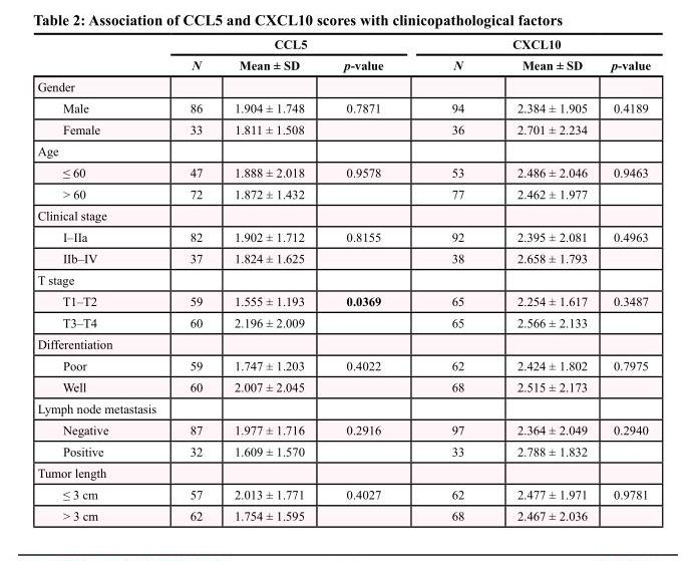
<table><thead><tr><td rowspan="2"></td><td colspan="3">CCL5</td><td colspan="3">CXCL10</td></tr><tr><td>N</td><td>Mean ± SD</td><td>p-value</td><td>N</td><td>Mean ± SD</td><td>p-value</td></tr></thead><tbody><tr><td colspan="7">Gender</td></tr><tr><td>Male</td><td>86</td><td>1.904 ± 1.748</td><td>0.7871</td><td>94</td><td>2.384 ± 1.905</td><td>0.4189</td></tr><tr><td>Female</td><td>33</td><td>1.811 ± 1.508</td><td></td><td>36</td><td>2.701 ± 2.234</td><td></td></tr><tr><td colspan="7">Age</td></tr><tr><td>≤ 60</td><td>47</td><td>1.888 ± 2.018</td><td>0.9578</td><td>53</td><td>2.486 ± 2.046</td><td>0.9463</td></tr><tr><td>&gt; 60</td><td>72</td><td>1.872 ± 1.432</td><td></td><td>77</td><td>2.462 ± 1.977</td><td></td></tr><tr><td colspan="7">Clinical stage</td></tr><tr><td>I–IIa</td><td>82</td><td>1.902 ± 1.712</td><td>0.8155</td><td>92</td><td>2.395 ± 2.081</td><td>0.4963</td></tr><tr><td>IIb–IV</td><td>37</td><td>1.824 ± 1.625</td><td></td><td>38</td><td>2.658 ± 1.793</td><td></td></tr><tr><td colspan="7">T stage</td></tr><tr><td>T1–T2</td><td>59</td><td>1.555 ± 1.193</td><td>0.0369</td><td>65</td><td>2.254 ± 1.617</td><td>0.3487</td></tr><tr><td>T3–T4</td><td>60</td><td>2.196 ± 2.009</td><td></td><td>65</td><td>2.566 ± 2.133</td><td></td></tr><tr><td colspan="7">Differentiation</td></tr><tr><td>Poor</td><td>59</td><td>1.747 ± 1.203</td><td>0.4022</td><td>62</td><td>2.424 ± 1.802</td><td>0.7975</td></tr><tr><td>Well</td><td>60</td><td>2.007 ± 2.045</td><td></td><td>68</td><td>2.515 ± 2.173</td><td></td></tr><tr><td colspan="7">Lymph node metastasis</td></tr><tr><td>Negative</td><td>87</td><td>1.977 ± 1.716</td><td>0.2916</td><td>97</td><td>2.364 ± 2.049</td><td>0.2940</td></tr><tr><td>Positive</td><td>32</td><td>1.609 ± 1.570</td><td></td><td>33</td><td>2.788 ± 1.832</td><td></td></tr><tr><td colspan="7">Tumor length</td></tr><tr><td>≤ 3 cm</td><td>57</td><td>2.013 ± 1.771</td><td>0.4027</td><td>62</td><td>2.477 ± 1.971</td><td>0.9781</td></tr><tr><td>&gt; 3 cm</td><td>62</td><td>1.754 ± 1.595</td><td></td><td>68</td><td>2.467 ± 2.036</td><td></td></tr></tbody></table>